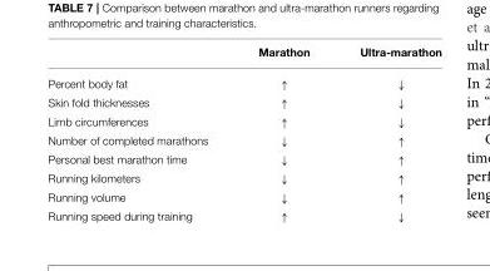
<table><thead><tr><td></td><td>Marathon</td><td>Ultra-marathon</td></tr></thead><tbody><tr><td>Percent body fat</td><td>↑</td><td>↓</td></tr><tr><td>Skin fold thicknesses</td><td>↑</td><td>↓</td></tr><tr><td>Limb circumferences</td><td>↑</td><td>↓</td></tr><tr><td>Number of completed marathons</td><td>↓</td><td>↑</td></tr><tr><td>Personal best marathon time</td><td>↓</td><td>↑</td></tr><tr><td>Running kilometers</td><td>↓</td><td>↑</td></tr><tr><td>Running volume</td><td>↓</td><td>↑</td></tr><tr><td>Running speed during training</td><td>↑</td><td>↓</td></tr></tbody></table>